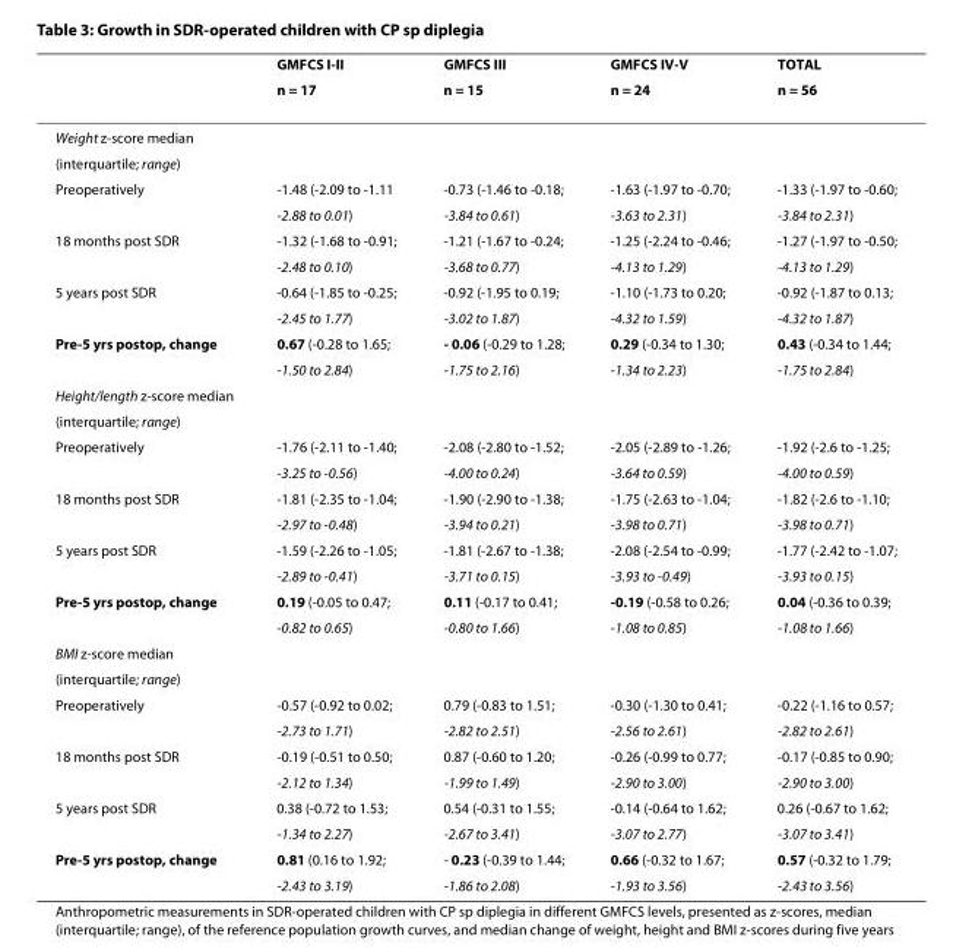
<table><thead><tr><td rowspan="2"></td><td rowspan="2">GMFCS I-II n = 17</td><td rowspan="2">GMFCS III n = 15</td><td rowspan="2">GMFCS IV-V n = 24</td><td rowspan="2">TOTAL n = 56</td></tr><tr></tr></thead><tbody><tr><td colspan="5">Weight z-score median</td></tr><tr><td colspan="5">(interquartile; range)</td></tr><tr><td rowspan="2">Preoperatively</td><td>-1.48 (-2.09 to -1.11</td><td>-0.73 (-1.46 to -0.18;</td><td>-1.63 (-1.97 to -0.70;</td><td>-1.33 (-1.97 to -0.60;</td></tr><tr><td>-2.88 to 0.01)</td><td>-3.84 to 0.61)</td><td>-3.63 to 2.31)</td><td>-3.84 to 2.31)</td></tr><tr><td rowspan="2">18 months post SDR</td><td>-1.32 (-1.68 to -0.91;</td><td>-1.21 (-1.67 to -0.24;</td><td>-1.25 (-2.24 to -0.46;</td><td>-1.27 (-1.97 to -0.50;</td></tr><tr><td>-2.48 to 0.10)</td><td>-3.68 to 0.77)</td><td>-4.13 to 1.29)</td><td>-4.13 to 1.29)</td></tr><tr><td rowspan="2">5 years post SDR</td><td>-0.64 (-1.85 to -0.25;</td><td>-0.92 (-1.95 to 0.19;</td><td>-1.10 (-1.73 to 0.20;</td><td>-0.92 (-1.87 to 0.13;</td></tr><tr><td>-2.45 to 1.77)</td><td>-3.02 to 1.87)</td><td>-4.32 to 1.59)</td><td>-4.32 to 1.87)</td></tr><tr><td rowspan="2">Pre-5 yrs postop, change</td><td>0.67 (-0.28 to 1.65;</td><td>- 0.06 (-0.29 to 1.28;</td><td>0.29 (-0.34 to 1.30;</td><td>0.43 (-0.34 to 1.44;</td></tr><tr><td>-1.50 to 2.84)</td><td>-1.75 to 2.16)</td><td>-1.34 to 2.23)</td><td>-1.75 to 2.84)</td></tr><tr><td colspan="5">Height/length z-score median</td></tr><tr><td colspan="5">(interquartile; range)</td></tr><tr><td rowspan="2">Preoperatively</td><td>-1.76 (-2.11 to -1.40;</td><td>-2.08 (-2.80 to -1.52;</td><td>-2.05 (-2.89 to -1.26;</td><td>-1.92 (-2.6 to -1.25;</td></tr><tr><td>-3.25 to -0.56)</td><td>-4.00 to 0.24)</td><td>-3.64 to 0.59)</td><td>-4.00 to 0.59)</td></tr><tr><td rowspan="2">18 months post SDR</td><td>-1.81 (-2.35 to -1.04;</td><td>-1.90 (-2.90 to -1.38;</td><td>-1.75 (-2.63 to -1.04;</td><td>-1.82 (-2.6 to -1.10;</td></tr><tr><td>-2.97 to -0.48)</td><td>-3.94 to 0.21)</td><td>-3.98 to 0.71)</td><td>-3.98 to 0.71)</td></tr><tr><td rowspan="2">5 years post SDR</td><td>-1.59 (-2.26 to -1.05;</td><td>-1.81 (-2.67 to -1.38;</td><td>-2.08 (-2.54 to -0.99;</td><td>-1.77 (-2.42 to -1.07;</td></tr><tr><td>-2.89 to -0.41)</td><td>-3.71 to 0.15)</td><td>-3.93 to -0.49)</td><td>-3.93 to 0.15)</td></tr><tr><td rowspan="2">Pre-5 yrs postop, change</td><td>0.19 (-0.05 to 0.47;</td><td>0.11 (-0.17 to 0.41;</td><td>-0.19 (-0.58 to 0.26;</td><td>0.04 (-0.36 to 0.39;</td></tr><tr><td>-0.82 to 0.65)</td><td>-0.80 to 1.66)</td><td>-1.08 to 0.85)</td><td>-1.08 to 1.66)</td></tr><tr><td colspan="5">BMI z-score median</td></tr><tr><td colspan="5">(interquartile; range)</td></tr><tr><td rowspan="2">Preoperatively</td><td>-0.57 (-0.92 to 0.02;</td><td>0.79 (-0.83 to 1.51;</td><td>-0.30 (-1.30 to 0.41;</td><td>-0.22 (-1.16 to 0.57;</td></tr><tr><td>-2.73 to 1.71)</td><td>-2.82 to 2.51)</td><td>-2.56 to 2.61)</td><td>-2.82 to 2.61)</td></tr><tr><td rowspan="2">18 months post SDR</td><td>-0.19 (-0.51 to 0.50;</td><td>0.87 (-0.60 to 1.20;</td><td>-0.26 (-0.99 to 0.77;</td><td>-0.17 (-0.85 to 0.90;</td></tr><tr><td>-2.12 to 1.34)</td><td>-1.99 to 1.49)</td><td>-2.90 to 3.00)</td><td>-2.90 to 3.00)</td></tr><tr><td rowspan="2">5 years post SDR</td><td>0.38 (-0.72 to 1.53;</td><td>0.54 (-0.31 to 1.55;</td><td>-0.14 (-0.64 to 1.62;</td><td>0.26 (-0.67 to 1.62;</td></tr><tr><td>-1.34 to 2.27)</td><td>-2.67 to 3.41)</td><td>-3.07 to 2.77)</td><td>-3.07 to 3.41)</td></tr><tr><td rowspan="2">Pre-5 yrs postop, change</td><td>0.81 (0.16 to 1.92;</td><td>- 0.23 (-0.39 to 1.44;</td><td>0.66 (-0.32 to 1.67;</td><td>0.57 (-0.32 to 1.79;</td></tr><tr><td>-2.43 to 3.19)</td><td>-1.86 to 2.08)</td><td>-1.93 to 3.56)</td><td>-2.43 to 3.56)</td></tr></tbody></table>